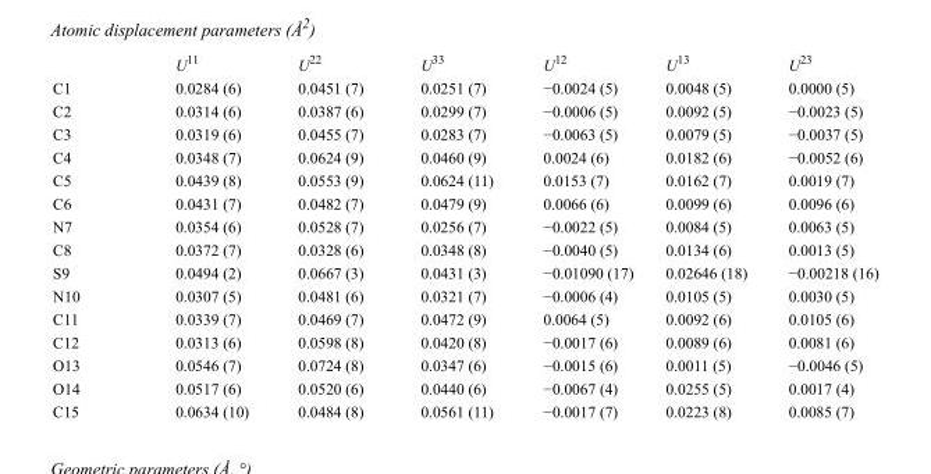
<table><thead><tr><td></td><td>U<sup>11</sup></td><td>U<sup>22</sup></td><td>U<sup>33</sup></td><td>U<sup>12</sup></td><td>U<sup>13</sup></td><td>U<sup>23</sup></td></tr></thead><tbody><tr><td>C1</td><td>0.0284 (6)</td><td>0.0451 (7)</td><td>0.0251 (7)</td><td>−0.0024 (5)</td><td>0.0048 (5)</td><td>0.0000 (5)</td></tr><tr><td>C2</td><td>0.0314 (6)</td><td>0.0387 (6)</td><td>0.0299 (7)</td><td>−0.0006 (5)</td><td>0.0092 (5)</td><td>−0.0023 (5)</td></tr><tr><td>C3</td><td>0.0319 (6)</td><td>0.0455 (7)</td><td>0.0283 (7)</td><td>−0.0063 (5)</td><td>0.0079 (5)</td><td>−0.0037 (5)</td></tr><tr><td>C4</td><td>0.0348 (7)</td><td>0.0624 (9)</td><td>0.0460 (9)</td><td>0.0024 (6)</td><td>0.0182 (6)</td><td>−0.0052 (6)</td></tr><tr><td>C5</td><td>0.0439 (8)</td><td>0.0553 (9)</td><td>0.0624 (11)</td><td>0.0153 (7)</td><td>0.0162 (7)</td><td>0.0019 (7)</td></tr><tr><td>C6</td><td>0.0431 (7)</td><td>0.0482 (7)</td><td>0.0479 (9)</td><td>0.0066 (6)</td><td>0.0099 (6)</td><td>0.0096 (6)</td></tr><tr><td>N7</td><td>0.0354 (6)</td><td>0.0528 (7)</td><td>0.0256 (7)</td><td>−0.0022 (5)</td><td>0.0084 (5)</td><td>0.0063 (5)</td></tr><tr><td>C8</td><td>0.0372 (7)</td><td>0.0328 (6)</td><td>0.0348 (8)</td><td>−0.0040 (5)</td><td>0.0134 (6)</td><td>0.0013 (5)</td></tr><tr><td>S9</td><td>0.0494 (2)</td><td>0.0667 (3)</td><td>0.0431 (3)</td><td>−0.01090 (17)</td><td>0.02646 (18)</td><td>−0.00218 (16)</td></tr><tr><td>N10</td><td>0.0307 (5)</td><td>0.0481 (6)</td><td>0.0321 (7)</td><td>−0.0006 (4)</td><td>0.0105 (5)</td><td>0.0030 (5)</td></tr><tr><td>C11</td><td>0.0339 (7)</td><td>0.0469 (7)</td><td>0.0472 (9)</td><td>0.0064 (5)</td><td>0.0092 (6)</td><td>0.0105 (6)</td></tr><tr><td>C12</td><td>0.0313 (6)</td><td>0.0598 (8)</td><td>0.0420 (8)</td><td>−0.0017 (6)</td><td>0.0089 (6)</td><td>0.0081 (6)</td></tr><tr><td>O13</td><td>0.0546 (7)</td><td>0.0724 (8)</td><td>0.0347 (6)</td><td>−0.0015 (6)</td><td>0.0011 (5)</td><td>−0.0046 (5)</td></tr><tr><td>O14</td><td>0.0517 (6)</td><td>0.0520 (6)</td><td>0.0440 (6)</td><td>−0.0067 (4)</td><td>0.0255 (5)</td><td>0.0017 (4)</td></tr><tr><td>C15</td><td>0.0634 (10)</td><td>0.0484 (8)</td><td>0.0561 (11)</td><td>−0.0017 (7)</td><td>0.0223 (8)</td><td>0.0085 (7)</td></tr></tbody></table>